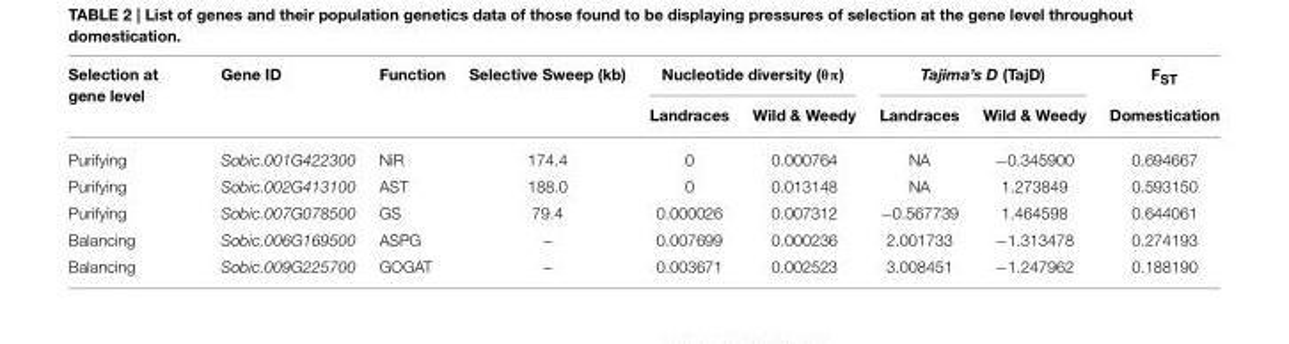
<table><thead><tr><td rowspan="2">Selection at gene level</td><td rowspan="2">Gene ID</td><td rowspan="2">Function</td><td rowspan="2">Selective Sweep (kb)</td><td colspan="2">Nucleotide diversity (θπ)</td><td colspan="2">Tajima’s D (TajD)</td><td rowspan="2">F<sub>ST</sub> Domestication</td></tr><tr><td>Landraces</td><td>Wild &amp; Weedy</td><td>Landraces</td><td>Wild &amp; Weedy</td></tr></thead><tbody><tr><td>Purifying</td><td>Sobic.001G422300</td><td>NiR</td><td>174.4</td><td>0</td><td>0.000764</td><td>NA</td><td>−0.345900</td><td>0.694667</td></tr><tr><td>Purifying</td><td>Sobic.002G413100</td><td>AST</td><td>188.0</td><td>0</td><td>0.013148</td><td>NA</td><td>1.273849</td><td>0.593150</td></tr><tr><td>Purifying</td><td>Sobic.007G078500</td><td>GS</td><td>79.4</td><td>0.000026</td><td>0.007312</td><td>−0.567739</td><td>1.464598</td><td>0.644061</td></tr><tr><td>Balancing</td><td>Sobic.006G169500</td><td>ASPG</td><td>–</td><td>0.007699</td><td>0.000236</td><td>2.001733</td><td>−1.313478</td><td>0.274193</td></tr><tr><td>Balancing</td><td>Sobic.009G225700</td><td>GOGAT</td><td>–</td><td>0.003671</td><td>0.002523</td><td>3.008451</td><td>−1.247962</td><td>0.188190</td></tr></tbody></table>